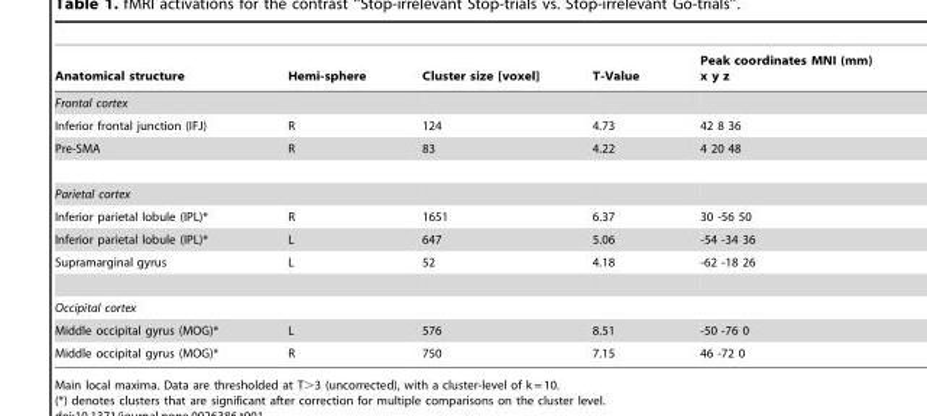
<table><thead><tr><td>Anatomical structure</td><td>Hemi-sphere</td><td>Cluster size [voxel]</td><td>T-Value</td><td>Peak coordinates MNI (mm) x y z</td></tr></thead><tbody><tr><td colspan="5">Frontal cortex</td></tr><tr><td>Inferior frontal junction (IFJ)</td><td>R</td><td>124</td><td>4.73</td><td>42 8 36</td></tr><tr><td>Pre-SMA</td><td>R</td><td>83</td><td>4.22</td><td>4 20 48</td></tr><tr><td colspan="5">Parietal cortex</td></tr><tr><td>Inferior parietal lobule (IPL)*</td><td>R</td><td>1651</td><td>6.37</td><td>30 -56 50</td></tr><tr><td>Inferior parietal lobule (IPL)*</td><td>L</td><td>647</td><td>5.06</td><td>-54 -34 36</td></tr><tr><td>Supramarginal gyrus</td><td>L</td><td>52</td><td>4.18</td><td>-62 -18 26</td></tr><tr><td colspan="5">Occipital cortex</td></tr><tr><td>Middle occipital gyrus (MOG)*</td><td>L</td><td>576</td><td>8.51</td><td>-50 -76 0</td></tr><tr><td>Middle occipital gyrus (MOG)*</td><td>R</td><td>750</td><td>7.15</td><td>46 -72 0</td></tr></tbody></table>